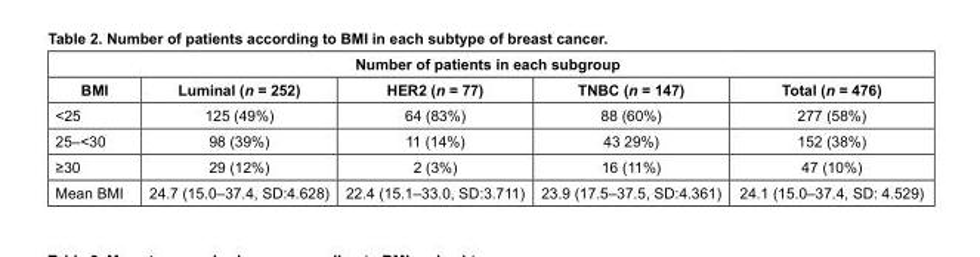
<table><thead><tr><td colspan="5">Number of patients in each subgroup</td></tr><tr><td>BMI</td><td>Luminal (n = 252)</td><td>HER2 (n = 77)</td><td>TNBC (n = 147)</td><td>Total (n = 476)</td></tr></thead><tbody><tr><td>&lt;25</td><td>125 (49%)</td><td>64 (83%)</td><td>88 (60%)</td><td>277 (58%)</td></tr><tr><td>25–&lt;30</td><td>98 (39%)</td><td>11 (14%)</td><td>43 29%)</td><td>152 (38%)</td></tr><tr><td>≥30</td><td>29 (12%)</td><td>2 (3%)</td><td>16 (11%)</td><td>47 (10%)</td></tr><tr><td>Mean BMI</td><td>24.7 (15.0–37.4, SD:4.628)</td><td>22.4 (15.1–33.0, SD:3.711)</td><td>23.9 (17.5–37.5, SD:4.361)</td><td>24.1 (15.0–37.4, SD: 4.529)</td></tr></tbody></table>